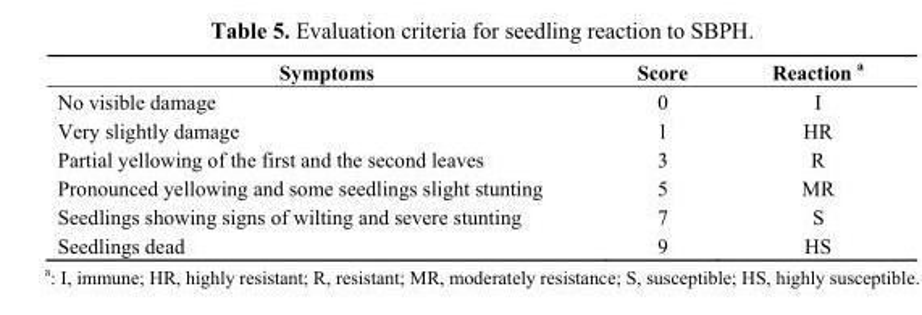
<table><thead><tr><td>Symptoms</td><td>Score</td><td>Reaction a</td></tr></thead><tbody><tr><td>No visible damage</td><td>0</td><td>I</td></tr><tr><td>Very slightly damage</td><td>1</td><td>HR</td></tr><tr><td>Partial yellowing of the first and the second leaves</td><td>3</td><td>R</td></tr><tr><td>Pronounced yellowing and some seedlings slight stunting</td><td>5</td><td>MR</td></tr><tr><td>Seedlings showing signs of wilting and severe stunting</td><td>7</td><td>S</td></tr><tr><td>Seedlings dead</td><td>9</td><td>HS</td></tr></tbody></table>